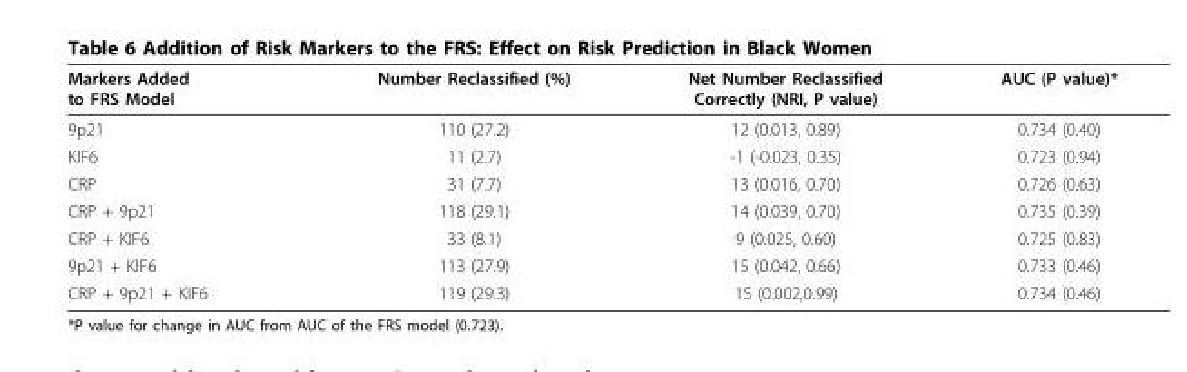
<table><thead><tr><td>Markers Added to FRS Model</td><td>Number Reclassified (%)</td><td>Net Number Reclassified Correctly (NRI, P value)</td><td>AUC (P value)*</td></tr></thead><tbody><tr><td>9p21</td><td>110 (27.2)</td><td>12 (0.013, 0.89)</td><td>0.734 (0.40)</td></tr><tr><td>KIF6</td><td>11 (2.7)</td><td>-1 (-0.023, 0.35)</td><td>0.723 (0.94)</td></tr><tr><td>CRP</td><td>31 (7.7)</td><td>13 (0.016, 0.70)</td><td>0.726 (0.63)</td></tr><tr><td>CRP + 9p21</td><td>118 (29.1)</td><td>14 (0.039, 0.70)</td><td>0.735 (0.39)</td></tr><tr><td>CRP + KIF6</td><td>33 (8.1)</td><td>9 (0.025, 0.60)</td><td>0.725 (0.83)</td></tr><tr><td>9p21 + KIF6</td><td>113 (27.9)</td><td>15 (0.042, 0.66)</td><td>0.733 (0.46)</td></tr><tr><td>CRP + 9p21 + KIF6</td><td>119 (29.3)</td><td>15 (0.002,0.99)</td><td>0.734 (0.46)</td></tr></tbody></table>